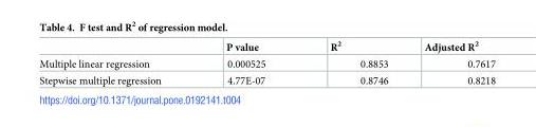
<table><thead><tr><td></td><td>P value</td><td>R<sup>2</sup></td><td>Adjusted R<sup>2</sup></td></tr></thead><tbody><tr><td>Multiple linear regression</td><td>0.000525</td><td>0.8853</td><td>0.7617</td></tr><tr><td>Stepwise multiple regression</td><td>4.77E-07</td><td>0.8746</td><td>0.8218</td></tr></tbody></table>